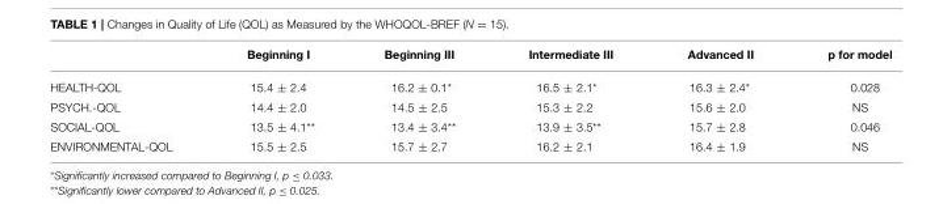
<table><thead><tr><td></td><td>Beginning I</td><td>Beginning III</td><td>Intermediate III</td><td>Advanced II</td><td>p for model</td></tr></thead><tbody><tr><td>HEALTH-QOL</td><td>15.4 ± 2.4</td><td>16.2 ± 0.1*</td><td>16.5 ± 2.1*</td><td>16.3 ± 2.4*</td><td>0.028</td></tr><tr><td>PSYCH.-QOL</td><td>14.4 ± 2.0</td><td>14.5 ± 2.5</td><td>15.3 ± 2.2</td><td>15.6 ± 2.0</td><td>NS</td></tr><tr><td>SOCIAL-QOL</td><td>13.5 ± 4.1**</td><td>13.4 ± 3.4**</td><td>13.9 ± 3.5**</td><td>15.7 ± 2.8</td><td>0.046</td></tr><tr><td>ENVIRONMENTAL-QOL</td><td>15.5 ± 2.5</td><td>15.7 ± 2.7</td><td>16.2 ± 2.1</td><td>16.4 ± 1.9</td><td>NS</td></tr></tbody></table>